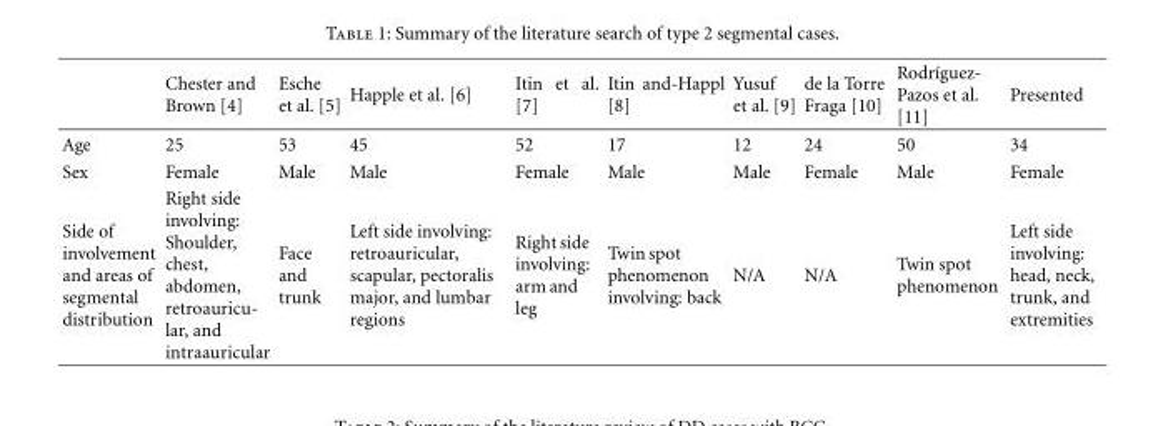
<table><thead><tr><td></td><td>Chester and Brown [4]</td><td>Esche et al. [5]</td><td>Happle et al. [6]</td><td>Itin et al. [7]</td><td>Itin and-Happl [8]</td><td>Yusuf et al. [9]</td><td>de la Torre Fraga [10]</td><td>Rodr´ıguez- Pazos et al. [11]</td><td>Presented</td></tr></thead><tbody><tr><td>Age</td><td>25</td><td>53</td><td>45</td><td>52</td><td>17</td><td>12</td><td>24</td><td>50</td><td>34</td></tr><tr><td>Sex</td><td>Female</td><td>Male</td><td>Male</td><td>Female</td><td>Male</td><td>Male</td><td>Female</td><td>Male</td><td>Female</td></tr><tr><td>Side of involvement and areas of segmental distribution</td><td>Right side involving: Shoulder, chest, abdomen, retroauricu- lar, and intraauricular</td><td>Face and trunk</td><td>Left side involving: retroauricular, scapular, pectoralis major, and lumbar regions</td><td>Right side involving: arm and leg</td><td>Twin spot phenomenon involving: back</td><td>N/A</td><td>N/A</td><td>Twin spot phenomenon</td><td>Left side involving: head, neck, trunk, and extremities</td></tr></tbody></table>